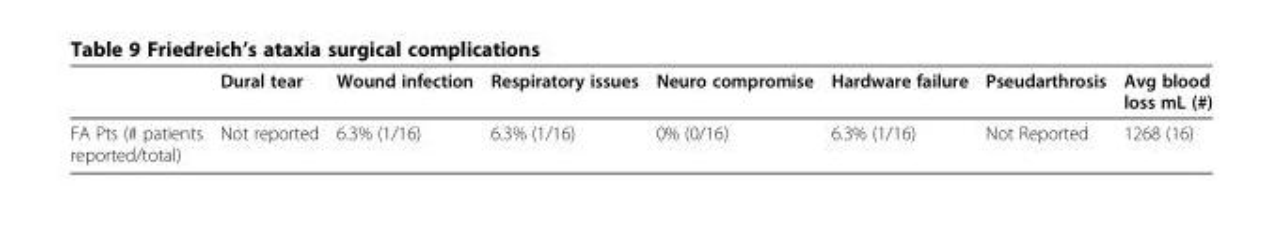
<table><thead><tr><td></td><td>Dural tear</td><td>Wound infection</td><td>Respiratory issues</td><td>Neuro compromise</td><td>Hardware failure</td><td>Pseudarthrosis</td><td>Avg blood loss mL (#)</td></tr></thead><tbody><tr><td>FA Pts (# patients reported/total)</td><td>Not reported</td><td>6.3% (1/16)</td><td>6.3% (1/16)</td><td>0% (0/16)</td><td>6.3% (1/16)</td><td>Not Reported</td><td>1268 (16)</td></tr></tbody></table>